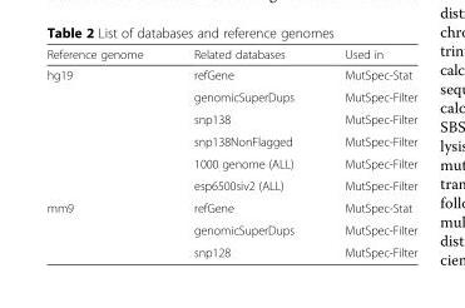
<table><thead><tr><td>Reference genome</td><td>Related databases</td><td>Used in</td></tr></thead><tbody><tr><td rowspan="6">hg19</td><td>refGene</td><td>MutSpec-Stat</td></tr><tr><td>genomicSuperDups</td><td>MutSpec-Filter</td></tr><tr><td>snp138</td><td>MutSpec-Filter</td></tr><tr><td>snp138NonFlagged</td><td>MutSpec-Filter</td></tr><tr><td>1000 genome (ALL)</td><td>MutSpec-Filter</td></tr><tr><td>esp6500siv2 (ALL)</td><td>MutSpec-Filter</td></tr><tr><td rowspan="3">mm9</td><td>refGene</td><td>MutSpec-Stat</td></tr><tr><td>genomicSuperDups</td><td>MutSpec-Filter</td></tr><tr><td>snp128</td><td>MutSpec-Filter</td></tr></tbody></table>